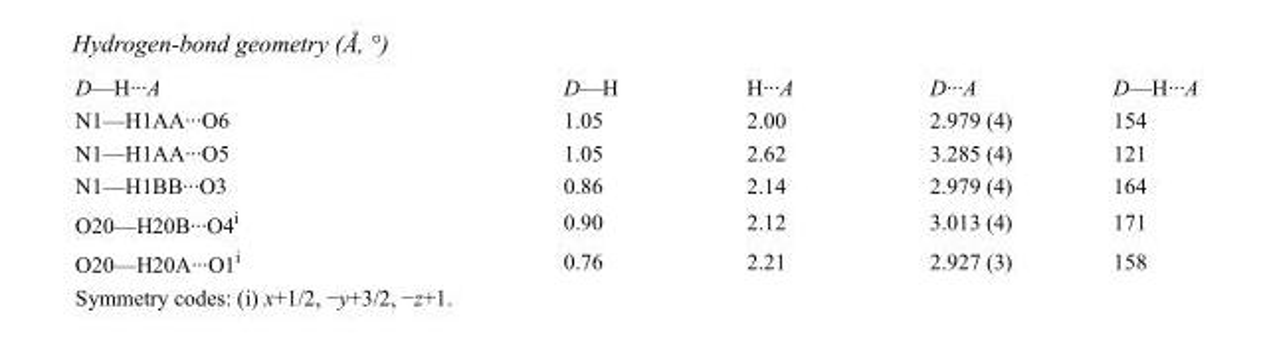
<table><tbody><tr><td>D—H···A</td><td>D—H</td><td>H···A</td><td>D···A</td><td>D—H···A</td></tr><tr><td>N1—H1AA···O6</td><td>1.05</td><td>2.00</td><td>2.979 (4)</td><td>154</td></tr><tr><td>N1—H1AA···O5</td><td>1.05</td><td>2.62</td><td>3.285 (4)</td><td>121</td></tr><tr><td>N1—H1BB···O3</td><td>0.86</td><td>2.14</td><td>2.979 (4)</td><td>164</td></tr><tr><td>O20—H20B···O4<sup>i</sup></td><td>0.90</td><td>2.12</td><td>3.013 (4)</td><td>171</td></tr><tr><td>O20—H20A···O1<sup>i</sup></td><td>0.76</td><td>2.21</td><td>2.927 (3)</td><td>158</td></tr></tbody></table>